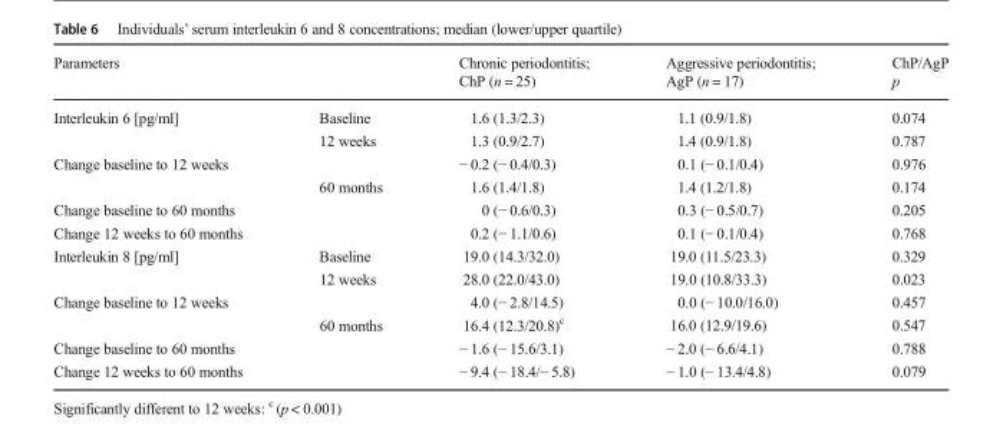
<table><thead><tr><td>Parameters</td><td></td><td>Chronic periodontitis; ChP (n = 25)</td><td>Aggressive periodontitis; AgP (n = 17)</td><td>ChP/AgP p</td></tr></thead><tbody><tr><td rowspan="2">Interleukin 6 [pg/ml]</td><td>Baseline</td><td>1.6 (1.3/2.3)</td><td>1.1 (0.9/1.8)</td><td>0.074</td></tr><tr><td>12 weeks</td><td>1.3 (0.9/2.7)</td><td>1.4 (0.9/1.8)</td><td>0.787</td></tr><tr><td rowspan="2">Change baseline to 12 weeks</td><td></td><td>− 0.2 (− 0.4/0.3)</td><td>0.1 (− 0.1/0.4)</td><td>0.976</td></tr><tr><td>60 months</td><td>1.6 (1.4/1.8)</td><td>1.4 (1.2/1.8)</td><td>0.174</td></tr><tr><td>Change baseline to 60 months</td><td></td><td>0 (− 0.6/0.3)</td><td>0.3 (− 0.5/0.7)</td><td>0.205</td></tr><tr><td>Change 12 weeks to 60 months</td><td></td><td>0.2 (− 1.1/0.6)</td><td>0.1 (− 0.1/0.4)</td><td>0.768</td></tr><tr><td rowspan="2">Interleukin 8 [pg/ml]</td><td>Baseline</td><td>19.0 (14.3/32.0)</td><td>19.0 (11.5/23.3)</td><td>0.329</td></tr><tr><td>12 weeks</td><td>28.0 (22.0/43.0)</td><td>19.0 (10.8/33.3)</td><td>0.023</td></tr><tr><td rowspan="2">Change baseline to 12 weeks</td><td></td><td>4.0 (− 2.8/14.5)</td><td>0.0 (− 10.0/16.0)</td><td>0.457</td></tr><tr><td>60 months</td><td>16.4 (12.3/20.8)<sup>c</sup></td><td>16.0 (12.9/19.6)</td><td>0.547</td></tr><tr><td>Change baseline to 60 months</td><td></td><td>− 1.6 (− 15.6/3.1)</td><td>− 2.0 (− 6.6/4.1)</td><td>0.788</td></tr><tr><td>Change 12 weeks to 60 months</td><td></td><td>− 9.4 (− 18.4/− 5.8)</td><td>− 1.0 (− 13.4/4.8)</td><td>0.079</td></tr></tbody></table>